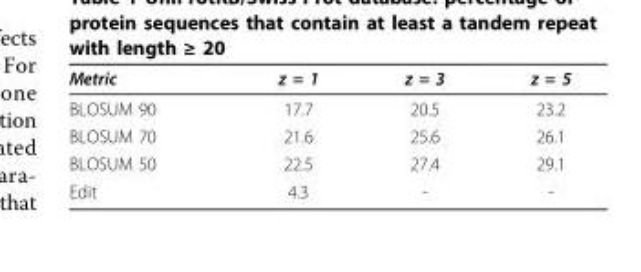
<table><thead><tr><td>Metric</td><td>z = 1</td><td>z = 3</td><td>z = 5</td></tr></thead><tbody><tr><td>BLOSUM 90</td><td>17.7</td><td>20.5</td><td>23.2</td></tr><tr><td>BLOSUM 70</td><td>21.6</td><td>25.6</td><td>26.1</td></tr><tr><td>BLOSUM 50</td><td>22.5</td><td>27.4</td><td>29.1</td></tr><tr><td>Edit</td><td>4.3</td><td>-</td><td>-</td></tr></tbody></table>